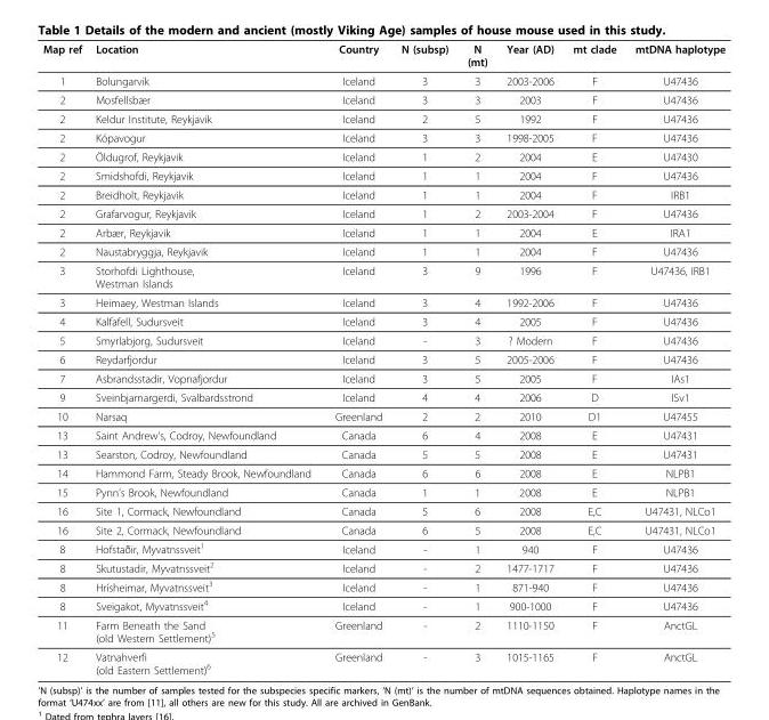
<table><thead><tr><td>Map ref</td><td>Location</td><td>Country</td><td>N (subsp)</td><td>N (mt)</td><td>Year (AD)</td><td>mt clade</td><td>mtDNA haplotype</td></tr></thead><tbody><tr><td>1</td><td>Bolungarvik</td><td>Iceland</td><td>3</td><td>3</td><td>2003-2006</td><td>F</td><td>U47436</td></tr><tr><td>2</td><td>Mosfellsbær</td><td>Iceland</td><td>3</td><td>3</td><td>2003</td><td>F</td><td>U47436</td></tr><tr><td>2</td><td>Keldur Institute, Reykjavik</td><td>Iceland</td><td>2</td><td>5</td><td>1992</td><td>F</td><td>U47436</td></tr><tr><td>2</td><td>Kópavogur</td><td>Iceland</td><td>3</td><td>3</td><td>1998-2005</td><td>F</td><td>U47436</td></tr><tr><td>2</td><td>Öldugrof, Reykjavik</td><td>Iceland</td><td>1</td><td>2</td><td>2004</td><td>E</td><td>U47430</td></tr><tr><td>2</td><td>Smidshofdi, Reykjavik</td><td>Iceland</td><td>1</td><td>1</td><td>2004</td><td>F</td><td>U47436</td></tr><tr><td>2</td><td>Breidholt, Reykjavik</td><td>Iceland</td><td>1</td><td>1</td><td>2004</td><td>F</td><td>IRB1</td></tr><tr><td>2</td><td>Grafarvogur, Reykjavik</td><td>Iceland</td><td>1</td><td>2</td><td>2003-2004</td><td>F</td><td>U47436</td></tr><tr><td>2</td><td>Arbær, Reykjavik</td><td>Iceland</td><td>1</td><td>1</td><td>2004</td><td>E</td><td>IRA1</td></tr><tr><td>2</td><td>Naustabryggja, Reykjavik</td><td>Iceland</td><td>1</td><td>1</td><td>2004</td><td>F</td><td>U47436</td></tr><tr><td>3</td><td>Storhofdi Lighthouse, Westman Islands</td><td>Iceland</td><td>3</td><td>9</td><td>1996</td><td>F</td><td>U47436, IRB1</td></tr><tr><td>3</td><td>Heimaey, Westman Islands</td><td>Iceland</td><td>3</td><td>4</td><td>1992-2006</td><td>F</td><td>U47436</td></tr><tr><td>4</td><td>Kalfafell, Sudursveit</td><td>Iceland</td><td>3</td><td>4</td><td>2005</td><td>F</td><td>U47436</td></tr><tr><td>5</td><td>Smyrlabjorg, Sudursveit</td><td>Iceland</td><td>-</td><td>3</td><td>? Modern</td><td>F</td><td>U47436</td></tr><tr><td>6</td><td>Reydarfjordur</td><td>Iceland</td><td>3</td><td>5</td><td>2005-2006</td><td>F</td><td>U47436</td></tr><tr><td>7</td><td>Asbrandsstadir, Vopnafjordur</td><td>Iceland</td><td>3</td><td>5</td><td>2005</td><td>F</td><td>IAs1</td></tr><tr><td>9</td><td>Sveinbjarnargerdi, Svalbardsstrond</td><td>Iceland</td><td>4</td><td>4</td><td>2006</td><td>D</td><td>ISv1</td></tr><tr><td>10</td><td>Narsaq</td><td>Greenland</td><td>2</td><td>2</td><td>2010</td><td>D1</td><td>U47455</td></tr><tr><td>13</td><td>Saint Andrew’s, Codroy, Newfoundland</td><td>Canada</td><td>6</td><td>4</td><td>2008</td><td>E</td><td>U47431</td></tr><tr><td>13</td><td>Searston, Codroy, Newfoundland</td><td>Canada</td><td>5</td><td>5</td><td>2008</td><td>E</td><td>U47431</td></tr><tr><td>14</td><td>Hammond Farm, Steady Brook, Newfoundland</td><td>Canada</td><td>6</td><td>6</td><td>2008</td><td>E</td><td>NLPB1</td></tr><tr><td>15</td><td>Pynn’s Brook, Newfoundland</td><td>Canada</td><td>1</td><td>1</td><td>2008</td><td>E</td><td>NLPB1</td></tr><tr><td>16</td><td>Site 1, Cormack, Newfoundland</td><td>Canada</td><td>5</td><td>6</td><td>2008</td><td>E,C</td><td>U47431, NLCo1</td></tr><tr><td>16</td><td>Site 2, Cormack, Newfoundland</td><td>Canada</td><td>6</td><td>5</td><td>2008</td><td>E,C</td><td>U47431, NLCo1</td></tr><tr><td>8</td><td>Hofstaðir, Myvatnssveit<sup>1</sup></td><td>Iceland</td><td>-</td><td>1</td><td>940</td><td>F</td><td>U47436</td></tr><tr><td>8</td><td>Skutustadir, Myvatnssveit<sup>2</sup></td><td>Iceland</td><td>-</td><td>2</td><td>1477-1717</td><td>F</td><td>U47436</td></tr><tr><td>8</td><td>Hrísheimar, Myvatnssveit<sup>3</sup></td><td>Iceland</td><td>-</td><td>1</td><td>871-940</td><td>F</td><td>U47436</td></tr><tr><td>8</td><td>Sveigakot, Myvatnssveit<sup>4</sup></td><td>Iceland</td><td>-</td><td>1</td><td>900-1000</td><td>F</td><td>U47436</td></tr><tr><td>11</td><td>Farm Beneath the Sand (old Western Settlement)<sup>5</sup></td><td>Greenland</td><td>-</td><td>2</td><td>1110-1150</td><td>F</td><td>AnctGL</td></tr><tr><td>12</td><td>Vatnahverfi (old Eastern Settlement)<sup>6</sup></td><td>Greenland</td><td>-</td><td>3</td><td>1015-1165</td><td>F</td><td>AnctGL</td></tr></tbody></table>